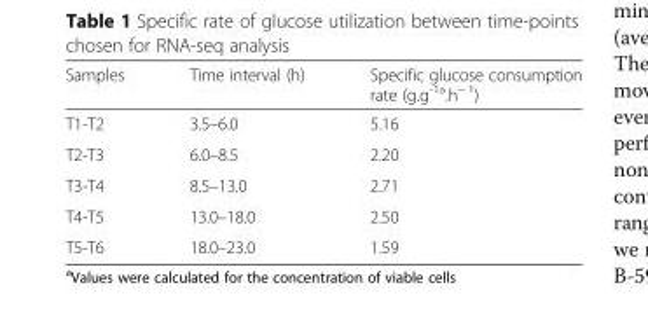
<table><thead><tr><td>Samples</td><td>Time interval (h)</td><td>Specific glucose consumption rate (g.g<sup>-1a</sup>.h<sup>− 1</sup>)</td></tr></thead><tbody><tr><td>T1-T2</td><td>3.5–6.0</td><td>5.16</td></tr><tr><td>T2-T3</td><td>6.0–8.5</td><td>2.20</td></tr><tr><td>T3-T4</td><td>8.5–13.0</td><td>2.71</td></tr><tr><td>T4-T5</td><td>13.0–18.0</td><td>2.50</td></tr><tr><td>T5-T6</td><td>18.0–23.0</td><td>1.59</td></tr></tbody></table>